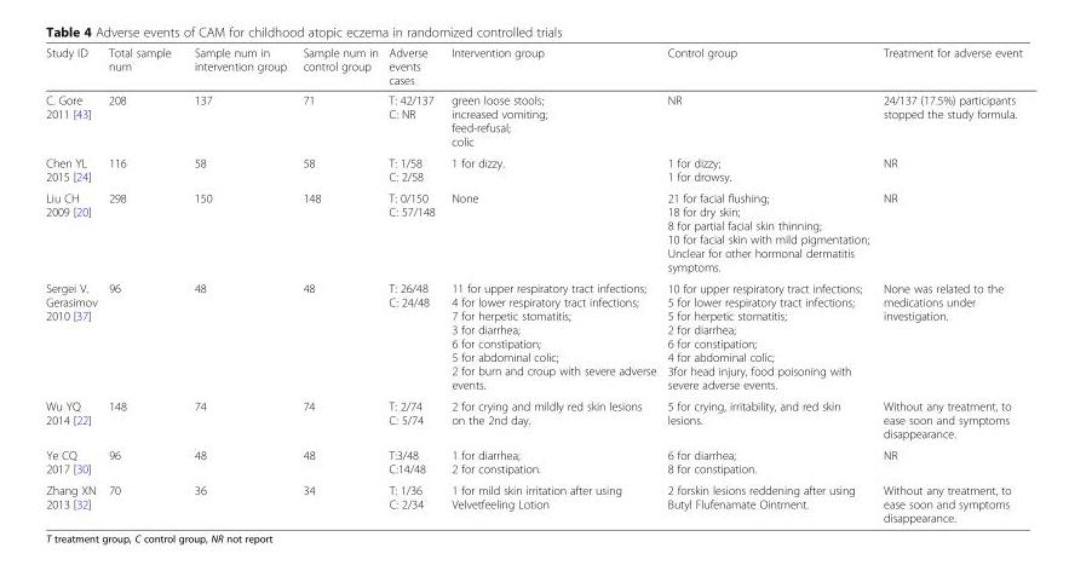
<table><thead><tr><td>Study ID</td><td>Total sample num</td><td>Sample num in intervention group</td><td>Sample num in control group</td><td>Adverse events cases</td><td>Intervention group</td><td>Control group</td><td>Treatment for adverse event</td></tr></thead><tbody><tr><td>C. Gore 2011 [43]</td><td>208</td><td>137</td><td>71</td><td>T: 42/137 C: NR</td><td>green loose stools; increased vomiting; feed-refusal; colic</td><td>NR</td><td>24/137 (17.5%) participants stopped the study formula.</td></tr><tr><td>Chen YL 2015 [24]</td><td>116</td><td>58</td><td>58</td><td>T: 1/58 C: 2/58</td><td>1 for dizzy.</td><td>1 for dizzy; 1 for drowsy.</td><td>NR</td></tr><tr><td>Liu CH 2009 [20]</td><td>298</td><td>150</td><td>148</td><td>T: 0/150 C: 57/148</td><td>None</td><td>21 for facial flushing; 18 for dry skin; 8 for partial facial skin thinning; 10 for facial skin with mild pigmentation; Unclear for other hormonal dermatitis symptoms.</td><td>NR</td></tr><tr><td>Sergei V. Gerasimov 2010 [37]</td><td>96</td><td>48</td><td>48</td><td>T: 26/48 C: 24/48</td><td>11 for upper respiratory tract infections; 4 for lower respiratory tract infections; 7 for herpetic stomatitis; 3 for diarrhea; 6 for constipation; 5 for abdominal colic; 2 for burn and croup with severe adverse events.</td><td>10 for upper respiratory tract infections; 5 for lower respiratory tract infections; 5 for herpetic stomatitis; 2 for diarrhea; 6 for constipation; 4 for abdominal colic; 3for head injury, food poisoning with severe adverse events.</td><td>None was related to the medications under investigation.</td></tr><tr><td>Wu YQ 2014 [22]</td><td>148</td><td>74</td><td>74</td><td>T: 2/74 C: 5/74</td><td>2 for crying and mildly red skin lesions on the 2nd day.</td><td>5 for crying, irritability, and red skin lesions.</td><td>Without any treatment, to ease soon and symptoms disappearance.</td></tr><tr><td>Ye CQ 2017 [30]</td><td>96</td><td>48</td><td>48</td><td>T:3/48 C:14/48</td><td>1 for diarrhea; 2 for constipation.</td><td>6 for diarrhea; 8 for constipation.</td><td>NR</td></tr><tr><td>Zhang XN 2013 [32]</td><td>70</td><td>36</td><td>34</td><td>T: 1/36 C: 2/34</td><td>1 for mild skin irritation after using Velvetfeeling Lotion</td><td>2 forskin lesions reddening after using Butyl Flufenamate Ointment.</td><td>Without any treatment, to ease soon and symptoms disappearance.</td></tr></tbody></table>